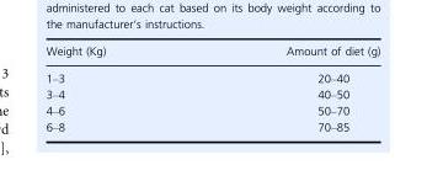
<table><thead><tr><td>Weight (Kg)</td><td>Amount of diet (g)</td></tr></thead><tbody><tr><td>1–3</td><td>20–40</td></tr><tr><td>3–4</td><td>40–50</td></tr><tr><td>4–6</td><td>50–70</td></tr><tr><td>6–8</td><td>70–85</td></tr></tbody></table>